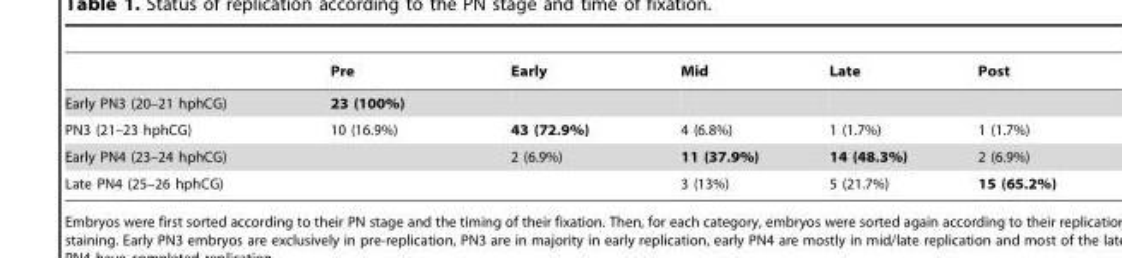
<table><thead><tr><td></td><td>Pre</td><td>Early</td><td>Mid</td><td>Late</td><td>Post</td></tr></thead><tbody><tr><td>Early PN3 (20–21 hphCG)</td><td>23 (100%)</td><td></td><td></td><td></td><td></td></tr><tr><td>PN3 (21–23 hphCG)</td><td>10 (16.9%)</td><td>43 (72.9%)</td><td>4 (6.8%)</td><td>1 (1.7%)</td><td>1 (1.7%)</td></tr><tr><td>Early PN4 (23–24 hphCG)</td><td></td><td>2 (6.9%)</td><td>11 (37.9%)</td><td>14 (48.3%)</td><td>2 (6.9%)</td></tr><tr><td>Late PN4 (25–26 hphCG)</td><td></td><td></td><td>3 (13%)</td><td>5 (21.7%)</td><td>15 (65.2%)</td></tr></tbody></table>